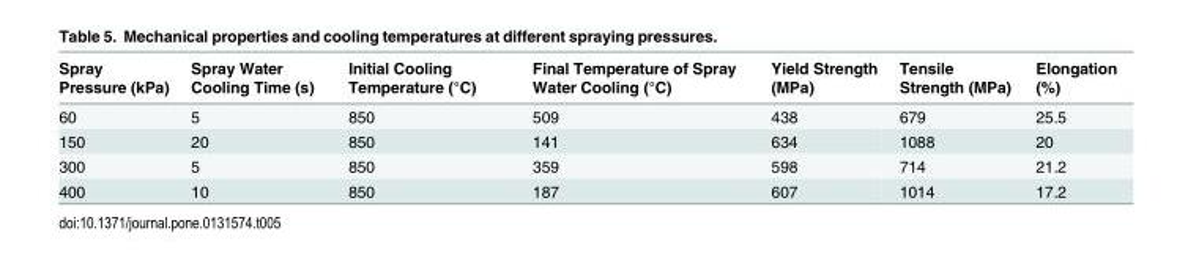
<table><thead><tr><td>Spray Pressure (kPa)</td><td>Spray Water Cooling Time (s)</td><td>Initial Cooling Temperature (°C)</td><td>Final Temperature of Spray Water Cooling (°C)</td><td>Yield Strength (MPa)</td><td>Tensile Strength (MPa)</td><td>Elongation (%)</td></tr></thead><tbody><tr><td>60</td><td>5</td><td>850</td><td>509</td><td>438</td><td>679</td><td>25.5</td></tr><tr><td>150</td><td>20</td><td>850</td><td>141</td><td>634</td><td>1088</td><td>20</td></tr><tr><td>300</td><td>5</td><td>850</td><td>359</td><td>598</td><td>714</td><td>21.2</td></tr><tr><td>400</td><td>10</td><td>850</td><td>187</td><td>607</td><td>1014</td><td>17.2</td></tr></tbody></table>